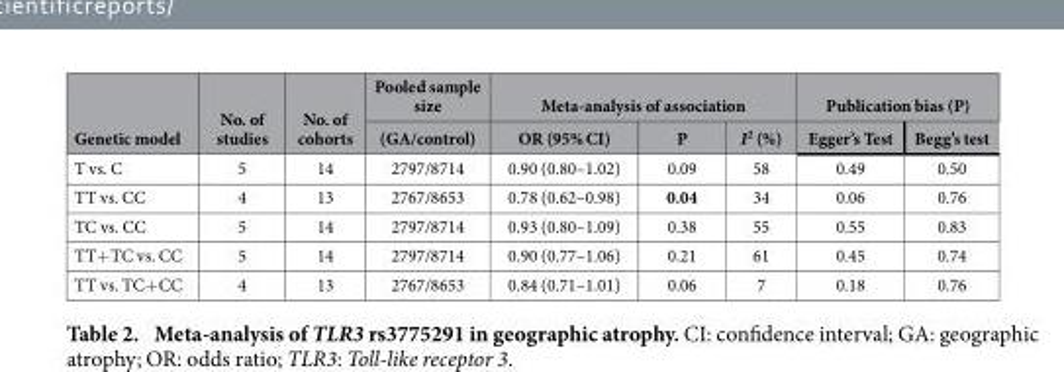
<table><thead><tr><td rowspan="2">Genetic model</td><td rowspan="2">No. of studies</td><td rowspan="2">No. of cohorts</td><td rowspan="2">Pooled sample size (GA/control)</td><td colspan="3">Meta-analysis of association</td><td colspan="2">Publication bias (P)</td></tr><tr><td>OR (95% CI)</td><td>P</td><td>I<sup>2</sup> (%)</td><td>Egger’s Test</td><td>Begg’s test</td></tr></thead><tbody><tr><td>T vs. C</td><td>5</td><td>14</td><td>2797/8714</td><td>0.90 (0.80–1.02)</td><td>0.09</td><td>58</td><td>0.49</td><td>0.50</td></tr><tr><td>TT vs. CC</td><td>4</td><td>13</td><td>2767/8653</td><td>0.78 (0.62–0.98)</td><td>0.04</td><td>34</td><td>0.06</td><td>0.76</td></tr><tr><td>TC vs. CC</td><td>5</td><td>14</td><td>2797/8714</td><td>0.93 (0.80–1.09)</td><td>0.38</td><td>55</td><td>0.55</td><td>0.83</td></tr><tr><td>TT+ TC vs. CC</td><td>5</td><td>14</td><td>2797/8714</td><td>0.90 (0.77–1.06)</td><td>0.21</td><td>61</td><td>0.45</td><td>0.74</td></tr><tr><td>TT vs. TC+ CC</td><td>4</td><td>13</td><td>2767/8653</td><td>0.84 (0.71–1.01)</td><td>0.06</td><td>7</td><td>0.18</td><td>0.76</td></tr></tbody></table>